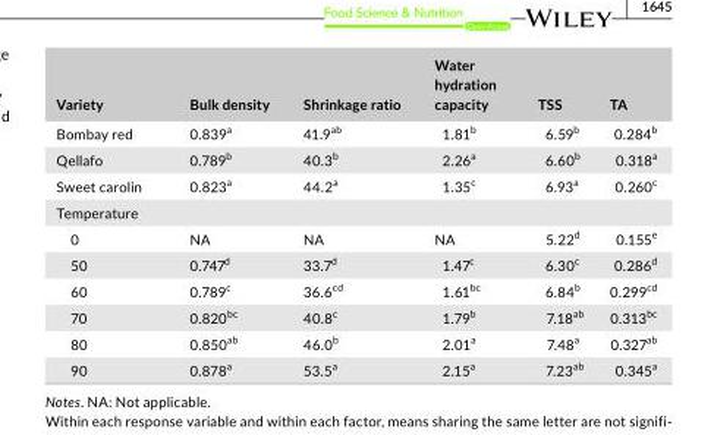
<table><thead><tr><td>Variety</td><td>Bulk density</td><td>Shrinkage ratio</td><td>Water hydration capacity</td><td>TSS</td><td>TA</td></tr></thead><tbody><tr><td>Bombay red</td><td>0.839<sup>a</sup></td><td>41.9<sup>ab</sup></td><td>1.81<sup>b</sup></td><td>6.59<sup>b</sup></td><td>0.284<sup>b</sup></td></tr><tr><td>Qellafo</td><td>0.789<sup>b</sup></td><td>40.3<sup>b</sup></td><td>2.26<sup>a</sup></td><td>6.60<sup>b</sup></td><td>0.318<sup>a</sup></td></tr><tr><td>Sweet carolin</td><td>0.823<sup>a</sup></td><td>44.2<sup>a</sup></td><td>1.35<sup>c</sup></td><td>6.93<sup>a</sup></td><td>0.260<sup>c</sup></td></tr><tr><td colspan="6">Temperature</td></tr><tr><td>0</td><td>NA</td><td>NA</td><td>NA</td><td>5.22<sup>d</sup></td><td>0.155<sup>e</sup></td></tr><tr><td>50</td><td>0.747<sup>d</sup></td><td>33.7<sup>d</sup></td><td>1.47<sup>c</sup></td><td>6.30<sup>c</sup></td><td>0.286<sup>d</sup></td></tr><tr><td>60</td><td>0.789<sup>c</sup></td><td>36.6<sup>cd</sup></td><td>1.61<sup>bc</sup></td><td>6.84<sup>b</sup></td><td>0.299<sup>cd</sup></td></tr><tr><td>70</td><td>0.820<sup>bc</sup></td><td>40.8<sup>c</sup></td><td>1.79<sup>b</sup></td><td>7.18<sup>ab</sup></td><td>0.313<sup>bc</sup></td></tr><tr><td>80</td><td>0.850<sup>ab</sup></td><td>46.0<sup>b</sup></td><td>2.01<sup>a</sup></td><td>7.48<sup>a</sup></td><td>0.327<sup>ab</sup></td></tr><tr><td>90</td><td>0.878<sup>a</sup></td><td>53.5<sup>a</sup></td><td>2.15<sup>a</sup></td><td>7.23<sup>ab</sup></td><td>0.345<sup>a</sup></td></tr></tbody></table>